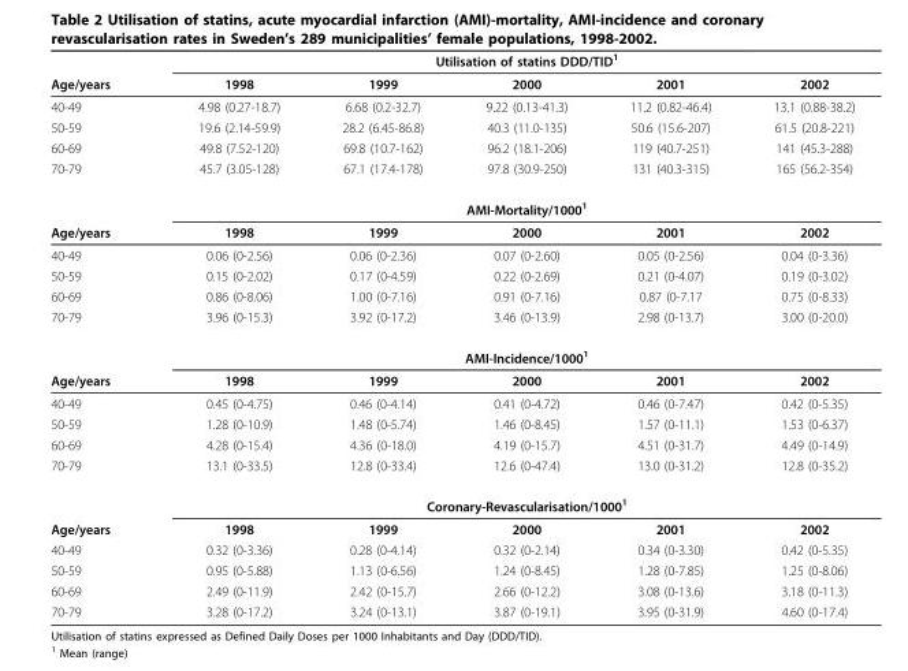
<table><thead><tr><td rowspan="2">Age/years</td><td colspan="5">Utilisation of statins DDD/TID<sup>1</sup></td></tr><tr><td>1998</td><td>1999</td><td>2000</td><td>2001</td><td>2002</td></tr></thead><tbody><tr><td>40-49</td><td>4.98 (0.27-18.7)</td><td>6.68 (0.2-32.7)</td><td>9.22 (0.13-41.3)</td><td>11.2 (0.82-46.4)</td><td>13.1 (0.88-38.2)</td></tr><tr><td>50-59</td><td>19.6 (2.14-59.9)</td><td>28.2 (6.45-86.8)</td><td>40.3 (11.0-135)</td><td>50.6 (15.6-207)</td><td>61.5 (20.8-221)</td></tr><tr><td>60-69</td><td>49.8 (7.52-120)</td><td>69.8 (10.7-162)</td><td>96.2 (18.1-206)</td><td>119 (40.7-251)</td><td>141 (45.3-288)</td></tr><tr><td rowspan="2">70-79</td><td>45.7 (3.05-128)</td><td>67.1 (17.4-178)</td><td>97.8 (30.9-250)</td><td>131 (40.3-315)</td><td>165 (56.2-354)</td></tr><tr><td colspan="5">AMI-Mortality/1000<sup>1</sup></td></tr><tr><td>Age/years</td><td>1998</td><td>1999</td><td>2000</td><td>2001</td><td>2002</td></tr><tr><td>40-49</td><td>0.06 (0-2.56)</td><td>0.06 (0-2.36)</td><td>0.07 (0-2.60)</td><td>0.05 (0-2.56)</td><td>0.04 (0-3.36)</td></tr><tr><td>50-59</td><td>0.15 (0-2.02)</td><td>0.17 (0-4.59)</td><td>0.22 (0-2.69)</td><td>0.21 (0-4.07)</td><td>0.19 (0-3.02)</td></tr><tr><td>60-69</td><td>0.86 (0-8.06)</td><td>1.00 (0-7.16)</td><td>0.91 (0-7.16)</td><td>0.87 (0-7.17</td><td>0.75 (0-8.33)</td></tr><tr><td rowspan="2">70-79</td><td>3.96 (0-15.3)</td><td>3.92 (0-17.2)</td><td>3.46 (0-13.9)</td><td>2.98 (0-13.7)</td><td>3.00 (0-20.0)</td></tr><tr><td colspan="5">AMI-Incidence/1000<sup>1</sup></td></tr><tr><td>Age/years</td><td>1998</td><td>1999</td><td>2000</td><td>2001</td><td>2002</td></tr><tr><td>40-49</td><td>0.45 (0-4.75)</td><td>0.46 (0-4.14)</td><td>0.41 (0-4.72)</td><td>0.46 (0-7.47)</td><td>0.42 (0-5.35)</td></tr><tr><td>50-59</td><td>1.28 (0-10.9)</td><td>1.48 (0-5.74)</td><td>1.46 (0-8.45)</td><td>1.57 (0-11.1)</td><td>1.53 (0-6.37)</td></tr><tr><td>60-69</td><td>4.28 (0-15.4)</td><td>4.36 (0-18.0)</td><td>4.19 (0-15.7)</td><td>4.51 (0-31.7)</td><td>4.49 (0-14.9)</td></tr><tr><td rowspan="2">70-79</td><td>13.1 (0-33.5)</td><td>12.8 (0-33.4)</td><td>12.6 (0-47.4)</td><td>13.0 (0-31.2)</td><td>12.8 (0-35.2)</td></tr><tr><td colspan="5">Coronary-Revascularisation/1000<sup>1</sup></td></tr><tr><td>Age/years</td><td>1998</td><td>1999</td><td>2000</td><td>2001</td><td>2002</td></tr><tr><td>40-49</td><td>0.32 (0-3.36)</td><td>0.28 (0-4.14)</td><td>0.32 (0-2.14)</td><td>0.34 (0-3.30)</td><td>0.42 (0-5.35)</td></tr><tr><td>50-59</td><td>0.95 (0-5.88)</td><td>1.13 (0-6.56)</td><td>1.24 (0-8.45)</td><td>1.28 (0-7.85)</td><td>1.25 (0-8.06)</td></tr><tr><td>60-69</td><td>2.49 (0-11.9)</td><td>2.42 (0-15.7)</td><td>2.66 (0-12.2)</td><td>3.08 (0-13.6)</td><td>3.18 (0-11.3)</td></tr><tr><td>70-79</td><td>3.28 (0-17.2)</td><td>3.24 (0-13.1)</td><td>3.87 (0-19.1)</td><td>3.95 (0-31.9)</td><td>4.60 (0-17.4)</td></tr></tbody></table>